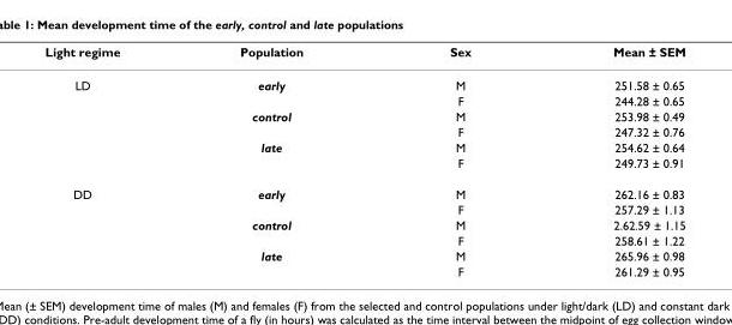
<table><thead><tr><td>Light regime</td><td>Population</td><td>Sex</td><td>Mean ± SEM</td></tr></thead><tbody><tr><td rowspan="6">LD</td><td>early</td><td>M</td><td>251.58 ± 0.65</td></tr><tr><td></td><td>F</td><td>244.28 ± 0.65</td></tr><tr><td>control</td><td>M</td><td>253.98 ± 0.49</td></tr><tr><td></td><td>F</td><td>247.32 ± 0.76</td></tr><tr><td>late</td><td>M</td><td>254.62 ± 0.64</td></tr><tr><td></td><td>F</td><td>249.73 ± 0.91</td></tr><tr><td rowspan="6">DD</td><td>early</td><td>M</td><td>262.16 ± 0.83</td></tr><tr><td></td><td>F</td><td>257.29 ± 1.13</td></tr><tr><td>control</td><td>M</td><td>2.62.59 ± 1.15</td></tr><tr><td></td><td>F</td><td>258.61 ± 1.22</td></tr><tr><td>late</td><td>M</td><td>265.96 ± 0.98</td></tr><tr><td></td><td>F</td><td>261.29 ± 0.95</td></tr></tbody></table>